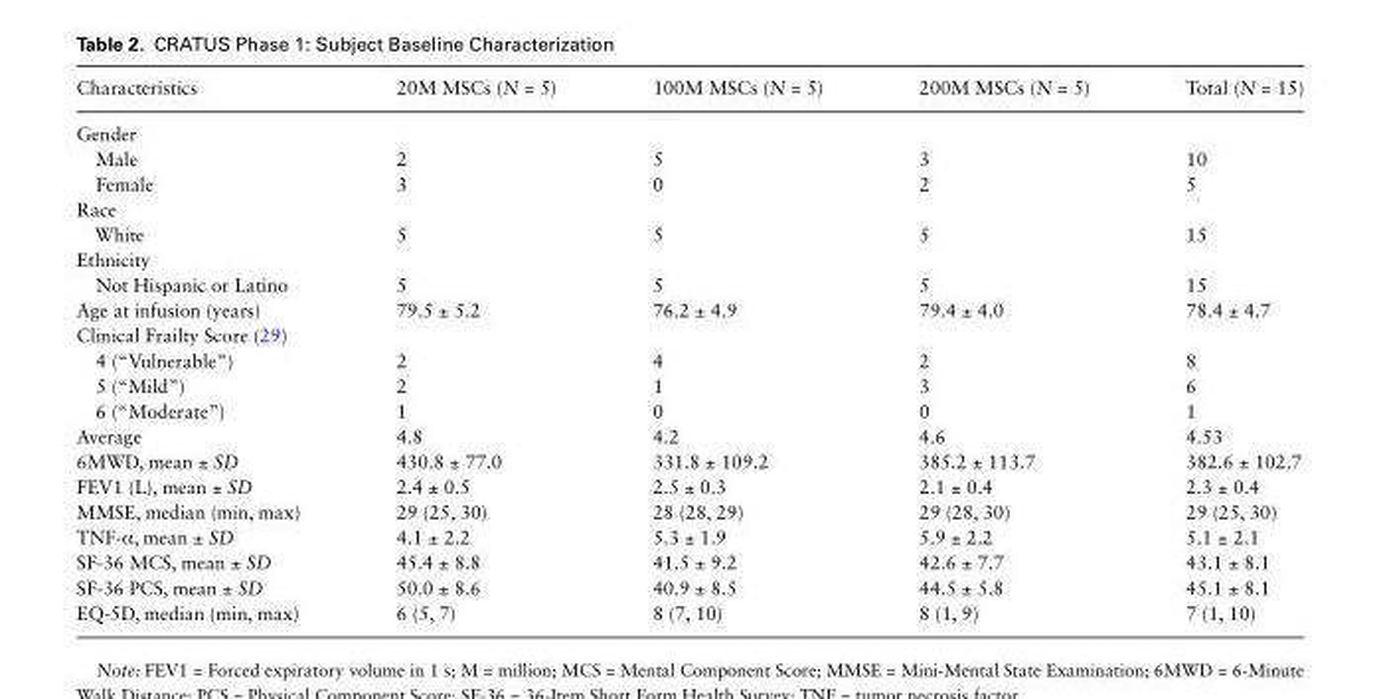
<table><thead><tr><td>Characteristics</td><td>20M MSCs (N = 5)</td><td>100M MSCs (N = 5)</td><td>200M MSCs (N = 5)</td><td>Total (N = 15)</td></tr></thead><tbody><tr><td colspan="5">Gender</td></tr><tr><td>Male</td><td>2</td><td>5</td><td>3</td><td>10</td></tr><tr><td>Female</td><td>3</td><td>0</td><td>2</td><td>5</td></tr><tr><td colspan="5">Race</td></tr><tr><td>White</td><td>5</td><td>5</td><td>5</td><td>15</td></tr><tr><td colspan="5">Ethnicity</td></tr><tr><td>Not Hispanic or Latino</td><td>5</td><td>5</td><td>5</td><td>15</td></tr><tr><td>Age at infusion (years)</td><td>79.5 ± 5.2</td><td>76.2 ± 4.9</td><td>79.4 ± 4.0</td><td>78.4 ± 4.7</td></tr><tr><td colspan="5">Clinical Frailty Score (29)</td></tr><tr><td>4 (“Vulnerable”)</td><td>2</td><td>4</td><td>2</td><td>8</td></tr><tr><td>5 (“Mild”)</td><td>2</td><td>1</td><td>3</td><td>6</td></tr><tr><td>6 (“Moderate”)</td><td>1</td><td>0</td><td>0</td><td>1</td></tr><tr><td>Average</td><td>4.8</td><td>4.2</td><td>4.6</td><td>4.53</td></tr><tr><td>6MWD, mean ± SD</td><td>430.8 ± 77.0</td><td>331.8 ± 109.2</td><td>385.2 ± 113.7</td><td>382.6 ± 102.7</td></tr><tr><td>FEV1 (L), mean ± SD</td><td>2.4 ± 0.5</td><td>2.5 ± 0.3</td><td>2.1 ± 0.4</td><td>2.3 ± 0.4</td></tr><tr><td>MMSE, median (min, max)</td><td>29 (25, 30)</td><td>28 (28, 29)</td><td>29 (28, 30)</td><td>29 (25, 30)</td></tr><tr><td>TNF-α, mean ± SD</td><td>4.1 ± 2.2</td><td>5.3 ± 1.9</td><td>5.9 ± 2.2</td><td>5.1 ± 2.1</td></tr><tr><td>SF-36 MCS, mean ± SD</td><td>45.4 ± 8.8</td><td>41.5 ± 9.2</td><td>42.6 ± 7.7</td><td>43.1 ± 8.1</td></tr><tr><td>SF-36 PCS, mean ± SD</td><td>50.0 ± 8.6</td><td>40.9 ± 8.5</td><td>44.5 ± 5.8</td><td>45.1 ± 8.1</td></tr><tr><td>EQ-5D, median (min, max)</td><td>6 (5, 7)</td><td>8 (7, 10)</td><td>8 (1, 9)</td><td>7 (1, 10)</td></tr></tbody></table>